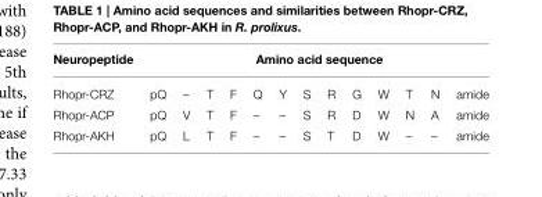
<table><thead><tr><td rowspan="2">Neuropeptide Rhopr-CRZ</td><td colspan="13">Amino acid sequence</td></tr><tr><td>pQ</td><td>–</td><td>T</td><td>F</td><td>Q</td><td>Y</td><td>S</td><td>R</td><td>G</td><td>W</td><td>T</td><td>N</td><td>amide</td></tr></thead><tbody><tr><td>Rhopr-ACP</td><td>pQ</td><td>V</td><td>T</td><td>F</td><td>–</td><td>–</td><td>S</td><td>R</td><td>D</td><td>W</td><td>N</td><td>A</td><td>amide</td></tr><tr><td>Rhopr-AKH</td><td>pQ</td><td>L</td><td>T</td><td>F</td><td>–</td><td>–</td><td>S</td><td>T</td><td>D</td><td>W</td><td>–</td><td>–</td><td>amide</td></tr></tbody></table>